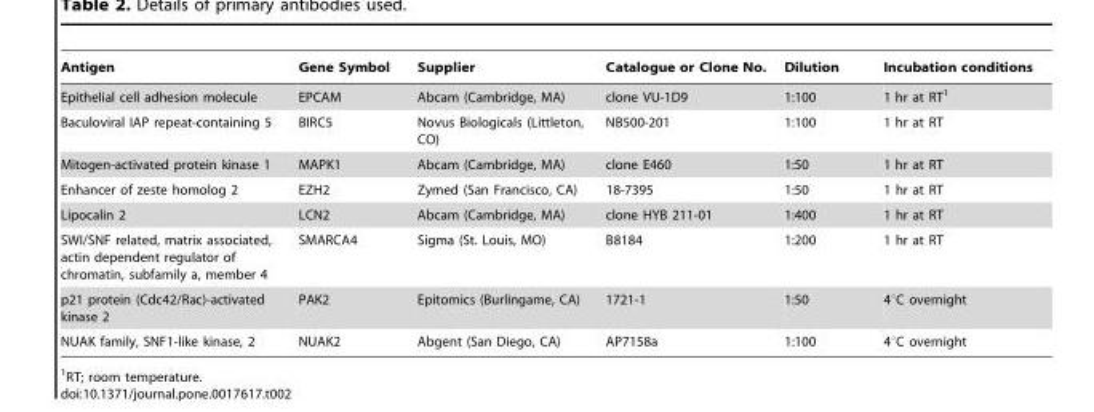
<table><thead><tr><td>Antigen</td><td>Gene Symbol</td><td>Supplier</td><td>Catalogue or Clone No.</td><td>Dilution</td><td>Incubation conditions</td></tr></thead><tbody><tr><td>Epithelial cell adhesion molecule</td><td>EPCAM</td><td>Abcam (Cambridge, MA)</td><td>clone VU-1D9</td><td>1:100</td><td>1 hr at RT<sup>1</sup></td></tr><tr><td>Baculoviral IAP repeat-containing 5</td><td>BIRC5</td><td>Novus Biologicals (Littleton, CO)</td><td>NB500-201</td><td>1:100</td><td>1 hr at RT</td></tr><tr><td>Mitogen-activated protein kinase 1</td><td>MAPK1</td><td>Abcam (Cambridge, MA)</td><td>clone E460</td><td>1:50</td><td>1 hr at RT</td></tr><tr><td>Enhancer of zeste homolog 2</td><td>EZH2</td><td>Zymed (San Francisco, CA)</td><td>18-7395</td><td>1:50</td><td>1 hr at RT</td></tr><tr><td>Lipocalin 2</td><td>LCN2</td><td>Abcam (Cambridge, MA)</td><td>clone HYB 211-01</td><td>1:400</td><td>1 hr at RT</td></tr><tr><td>SWI/SNF related, matrix associated, actin dependent regulator of chromatin, subfamily a, member 4</td><td>SMARCA4</td><td>Sigma (St. Louis, MO)</td><td>B8184</td><td>1:200</td><td>1 hr at RT</td></tr><tr><td>p21 protein (Cdc42/Rac)-activated kinase 2</td><td>PAK2</td><td>Epitomics (Burlingame, CA)</td><td>1721-1</td><td>1:50</td><td>4°C overnight</td></tr><tr><td>NUAK family, SNF1-like kinase, 2</td><td>NUAK2</td><td>Abgent (San Diego, CA)</td><td>AP7158a</td><td>1:100</td><td>4°C overnight</td></tr></tbody></table>